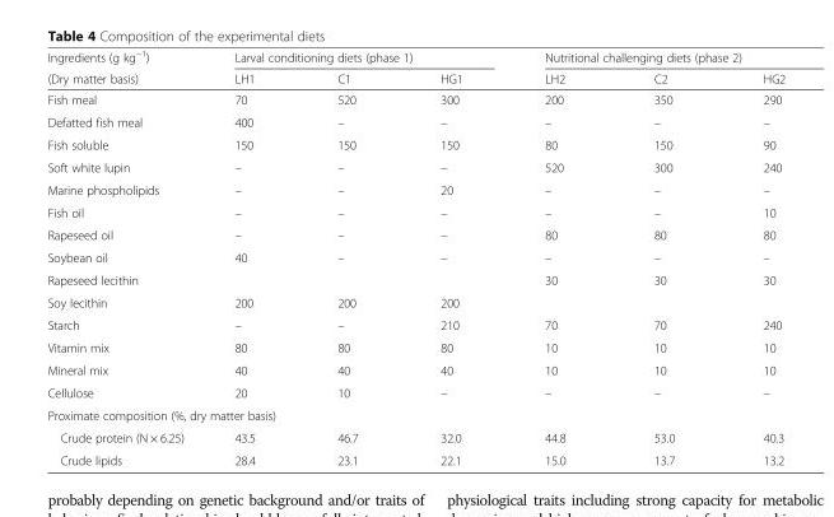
<table><thead><tr><td rowspan="2">Ingredients (g kg<sup>−1</sup>) (Dry matter basis)</td><td colspan="3">Larval conditioning diets (phase 1)</td><td colspan="3">Nutritional challenging diets (phase 2)</td></tr><tr><td>LH1</td><td>C1</td><td>HG1</td><td>LH2</td><td>C2</td><td>HG2</td></tr></thead><tbody><tr><td>Fish meal</td><td>70</td><td>520</td><td>300</td><td>200</td><td>350</td><td>290</td></tr><tr><td>Defatted fish meal</td><td>400</td><td>–</td><td>–</td><td>–</td><td>–</td><td>–</td></tr><tr><td>Fish soluble</td><td>150</td><td>150</td><td>150</td><td>80</td><td>150</td><td>90</td></tr><tr><td>Soft white lupin</td><td>–</td><td>–</td><td>–</td><td>520</td><td>300</td><td>240</td></tr><tr><td>Marine phospholipids</td><td>–</td><td>–</td><td>20</td><td>–</td><td>–</td><td>–</td></tr><tr><td>Fish oil</td><td>–</td><td>–</td><td>–</td><td>–</td><td>–</td><td>10</td></tr><tr><td>Rapeseed oil</td><td>–</td><td>–</td><td>–</td><td>80</td><td>80</td><td>80</td></tr><tr><td>Soybean oil</td><td>40</td><td>–</td><td>–</td><td>–</td><td>–</td><td>–</td></tr><tr><td>Rapeseed lecithin</td><td></td><td></td><td></td><td>30</td><td>30</td><td>30</td></tr><tr><td>Soy lecithin</td><td>200</td><td>200</td><td>200</td><td></td><td></td><td></td></tr><tr><td>Starch</td><td>–</td><td>–</td><td>210</td><td>70</td><td>70</td><td>240</td></tr><tr><td>Vitamin mix</td><td>80</td><td>80</td><td>80</td><td>10</td><td>10</td><td>10</td></tr><tr><td>Mineral mix</td><td>40</td><td>40</td><td>40</td><td>10</td><td>10</td><td>10</td></tr><tr><td>Cellulose</td><td>20</td><td>10</td><td>–</td><td>–</td><td>–</td><td>–</td></tr><tr><td colspan="7">Proximate composition (%, dry matter basis)</td></tr><tr><td>Crude protein (N × 6.25)</td><td>43.5</td><td>46.7</td><td>32.0</td><td>44.8</td><td>53.0</td><td>40.3</td></tr><tr><td>Crude lipids</td><td>28.4</td><td>23.1</td><td>22.1</td><td>15.0</td><td>13.7</td><td>13.2</td></tr></tbody></table>